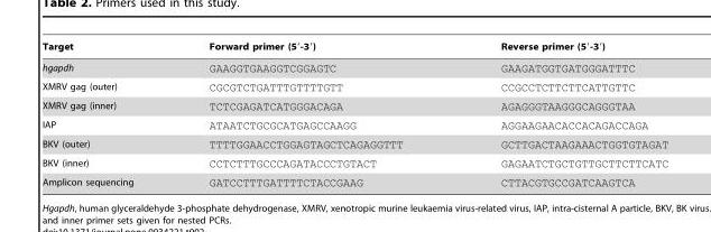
<table><thead><tr><td>Target</td><td>Forward primer (5′-3′)</td><td>Reverse primer (5′-3′)</td></tr></thead><tbody><tr><td>hgapdh</td><td>GAAGGTGAAGGTCGGAGTC</td><td>GAAGATGGTGATGGGATTTC</td></tr><tr><td>XMRV gag (outer)</td><td>CGCGTCTGATTTGTTTTGTT</td><td>CCGCCTCTTCTTCATTGTTC</td></tr><tr><td>XMRV gag (inner)</td><td>TCTCGAGATCATGGGACAGA</td><td>AGAGGGTAAGGGCAGGGTAA</td></tr><tr><td>IAP</td><td>ATAATCTGCGCATGAGCCAAGG</td><td>AGGAAGAACACCACAGACCAGA</td></tr><tr><td>BKV (outer)</td><td>TTTTGGAACCTGGAGTAGCTCAGAGGTTT</td><td>GCTTGACTAAGAAACTGGTGTAGAT</td></tr><tr><td>BKV (inner)</td><td>CCTCTTTGCCCAGATACCCTGTACT</td><td>GAGAATCTGCTGTTGCTTCTTCATC</td></tr><tr><td>Amplicon sequencing</td><td>GATCCTTTGATTTTCTACCGAAG</td><td>CTTACGTGCCGATCAAGTCA</td></tr></tbody></table>